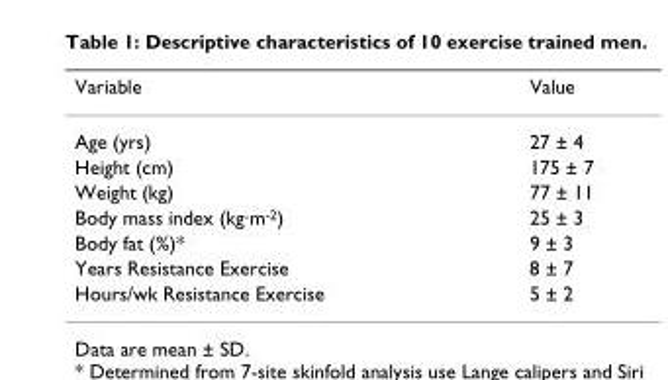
<table><thead><tr><td>Variable</td><td>Value</td></tr></thead><tbody><tr><td>Age (yrs)</td><td>27 ± 4</td></tr><tr><td>Height (cm)</td><td>175 ± 7</td></tr><tr><td>Weight (kg)</td><td>77 ± 11</td></tr><tr><td>Body mass index (kg·m<sup>-2</sup>)</td><td>25 ± 3</td></tr><tr><td>Body fat (%)*</td><td>9 ± 3</td></tr><tr><td>Years Resistance Exercise</td><td>8 ± 7</td></tr><tr><td>Hours/wk Resistance Exercise</td><td>5 ± 2</td></tr></tbody></table>